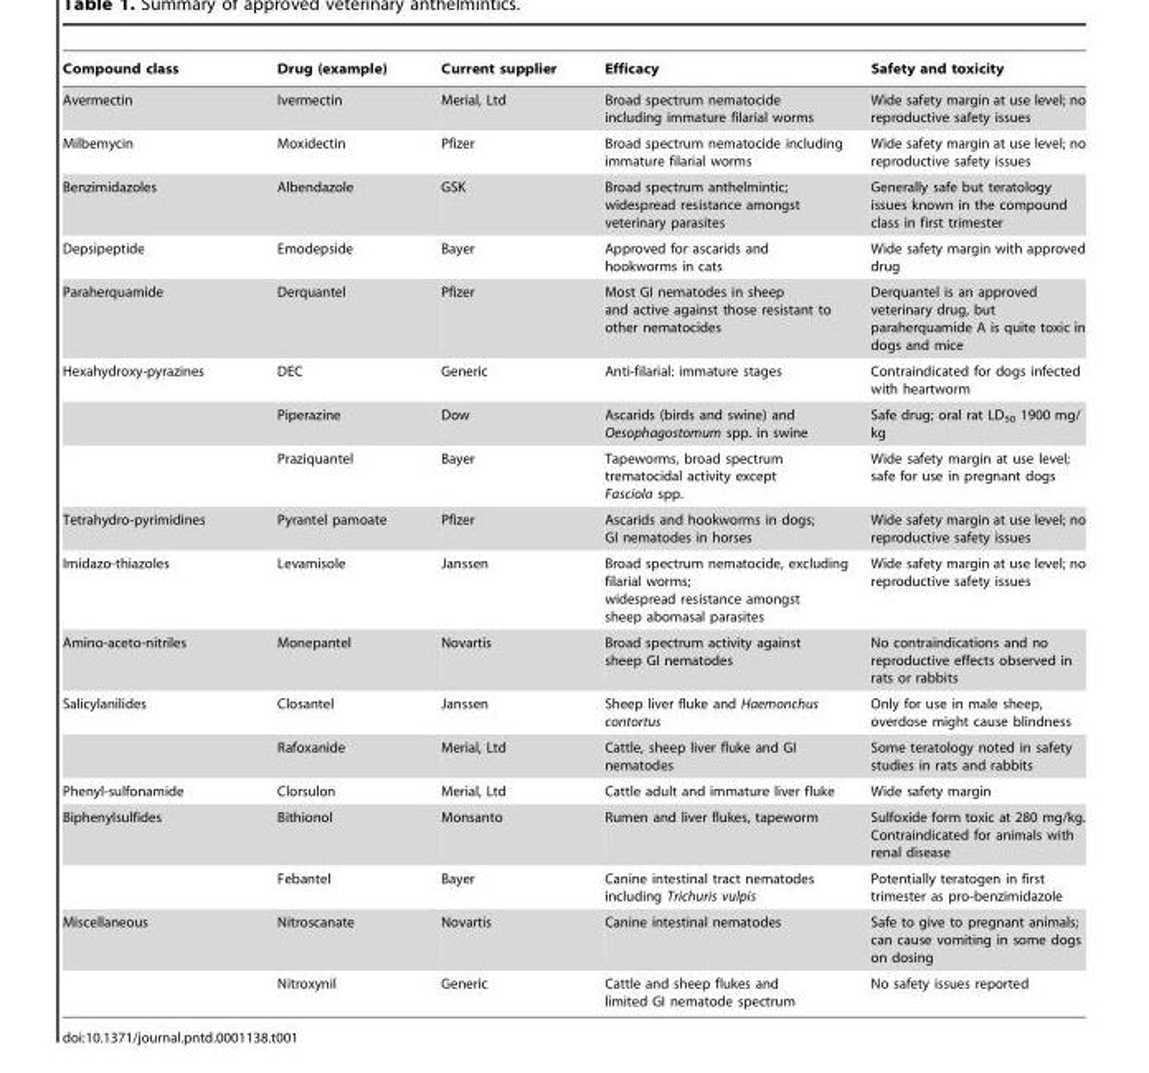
<table><thead><tr><td>Compound class</td><td>Drug (example)</td><td>Current supplier</td><td>Efficacy</td><td>Safety and toxicity</td></tr></thead><tbody><tr><td>Avermectin</td><td>Ivermectin</td><td>Merial, Ltd</td><td>Broad spectrum nematocide including immature filarial worms</td><td>Wide safety margin at use level; no reproductive safety issues</td></tr><tr><td>Milbemycin</td><td>Moxidectin</td><td>Pfizer</td><td>Broad spectrum nematocide including immature filarial worms</td><td>Wide safety margin at use level; no reproductive safety issues</td></tr><tr><td>Benzimidazoles</td><td>Albendazole</td><td>GSK</td><td>Broad spectrum anthelmintic; widespread resistance amongst veterinary parasites</td><td>Generally safe but teratology issues known in the compound class in first trimester</td></tr><tr><td>Depsipeptide</td><td>Emodepside</td><td>Bayer</td><td>Approved for ascarids and hookworms in cats</td><td>Wide safety margin with approved drug</td></tr><tr><td>Paraherquamide</td><td>Derquantel</td><td>Pfizer</td><td>Most GI nematodes in sheep and active against those resistant to other nematocides</td><td>Derquantel is an approved veterinary drug, but paraherquamide A is quite toxic in dogs and mice</td></tr><tr><td rowspan="3">Hexahydroxy-pyrazines</td><td>DEC</td><td>Generic</td><td>Anti-filarial: immature stages</td><td>Contraindicated for dogs infected with heartworm</td></tr><tr><td>Piperazine</td><td>Dow</td><td>Ascarids (birds and swine) and Oesophagostomum spp. in swine</td><td>Safe drug; oral rat LD<sub>50</sub> 1900 mg/ kg</td></tr><tr><td>Praziquantel</td><td>Bayer</td><td>Tapeworms, broad spectrum trematocidal activity except Fasciola spp.</td><td>Wide safety margin at use level; safe for use in pregnant dogs</td></tr><tr><td>Tetrahydro-pyrimidines</td><td>Pyrantel pamoate</td><td>Pfizer</td><td>Ascarids and hookworms in dogs; GI nematodes in horses</td><td>Wide safety margin at use level; no reproductive safety issues</td></tr><tr><td>Imidazo-thiazoles</td><td>Levamisole</td><td>Janssen</td><td>Broad spectrum nematocide, excluding filarial worms; widespread resistance amongst sheep abomasal parasites</td><td>Wide safety margin at use level; no reproductive safety issues</td></tr><tr><td>Amino-aceto-nitriles</td><td>Monepantel</td><td>Novartis</td><td>Broad spectrum activity against sheep GI nematodes</td><td>No contraindications and no reproductive effects observed in rats or rabbits</td></tr><tr><td rowspan="2">Salicylanilides</td><td>Closantel</td><td>Janssen</td><td>Sheep liver fluke and Haemonchus contortus</td><td>Only for use in male sheep, overdose might cause blindness</td></tr><tr><td>Rafoxanide</td><td>Merial, Ltd</td><td>Cattle, sheep liver fluke and GI nematodes</td><td>Some teratology noted in safety studies in rats and rabbits</td></tr><tr><td>Phenyl-sulfonamide</td><td>Clorsulon</td><td>Merial, Ltd</td><td>Cattle adult and immature liver fluke</td><td>Wide safety margin</td></tr><tr><td rowspan="2">Biphenylsulfides</td><td>Bithionol</td><td>Monsanto</td><td>Rumen and liver flukes, tapeworm</td><td>Sulfoxide form toxic at 280 mg/kg. Contraindicated for animals with renal disease</td></tr><tr><td>Febantel</td><td>Bayer</td><td>Canine intestinal tract nematodes including Trichuris vulpis</td><td>Potentially teratogen in first trimester as pro-benzimidazole</td></tr><tr><td rowspan="2">Miscellaneous</td><td>Nitroscanate</td><td>Novartis</td><td>Canine intestinal nematodes</td><td>Safe to give to pregnant animals; can cause vomiting in some dogs on dosing</td></tr><tr><td>Nitroxynil</td><td>Generic</td><td>Cattle and sheep flukes and limited GI nematode spectrum</td><td>No safety issues reported</td></tr></tbody></table>